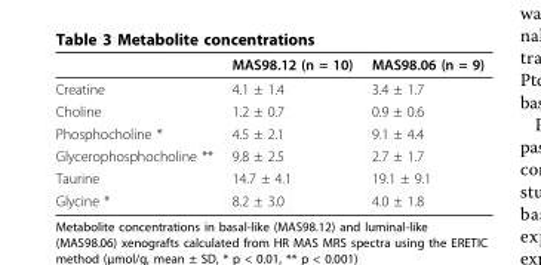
<table><thead><tr><td></td><td>MAS98.12 (n = 10)</td><td>MAS98.06 (n = 9)</td></tr></thead><tbody><tr><td>Creatine</td><td>4.1 ± 1.4</td><td>3.4 ± 1.7</td></tr><tr><td>Choline</td><td>1.2 ± 0.7</td><td>0.9 ± 0.6</td></tr><tr><td>Phosphocholine *</td><td>4.5 ± 2.1</td><td>9.1 ± 4.4</td></tr><tr><td>Glycerophosphocholine **</td><td>9.8 ± 2.5</td><td>2.7 ± 1.7</td></tr><tr><td>Taurine</td><td>14.7 ± 4.1</td><td>19.1 ± 9.1</td></tr><tr><td>Glycine *</td><td>8.2 ± 3.0</td><td>4.0 ± 1.8</td></tr></tbody></table>